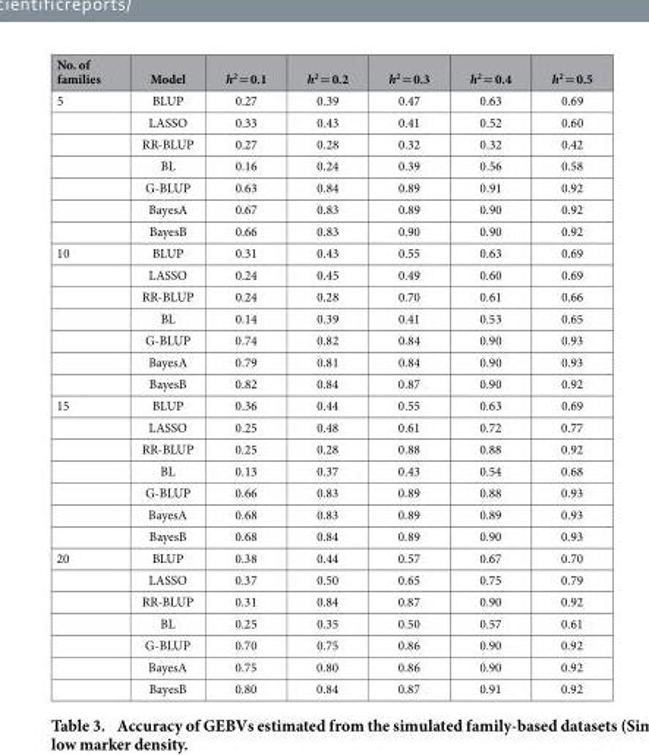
<table><thead><tr><td>No. of families</td><td>Model</td><td>h<sup>2</sup> = 0.1</td><td>h<sup>2</sup> = 0.2</td><td>h<sup>2</sup> = 0.3</td><td>h<sup>2</sup> = 0.4</td><td>h<sup>2</sup> = 0.5</td></tr></thead><tbody><tr><td rowspan="7">5</td><td>BLUP</td><td>0.27</td><td>0.39</td><td>0.47</td><td>0.63</td><td>0.69</td></tr><tr><td>LASSO</td><td>0.33</td><td>0.43</td><td>0.41</td><td>0.52</td><td>0.60</td></tr><tr><td>RR-BLUP</td><td>0.27</td><td>0.28</td><td>0.32</td><td>0.32</td><td>0.42</td></tr><tr><td>BL</td><td>0.16</td><td>0.24</td><td>0.39</td><td>0.56</td><td>0.58</td></tr><tr><td>G-BLUP</td><td>0.63</td><td>0.84</td><td>0.89</td><td>0.91</td><td>0.92</td></tr><tr><td>BayesA</td><td>0.67</td><td>0.83</td><td>0.89</td><td>0.90</td><td>0.92</td></tr><tr><td>BayesB</td><td>0.66</td><td>0.83</td><td>0.90</td><td>0.90</td><td>0.92</td></tr><tr><td rowspan="7">10</td><td>BLUP</td><td>0.31</td><td>0.43</td><td>0.55</td><td>0.63</td><td>0.69</td></tr><tr><td>LASSO</td><td>0.24</td><td>0.45</td><td>0.49</td><td>0.60</td><td>0.69</td></tr><tr><td>RR-BLUP</td><td>0.24</td><td>0.28</td><td>0.70</td><td>0.61</td><td>0.66</td></tr><tr><td>BL</td><td>0.14</td><td>0.39</td><td>0.41</td><td>0.53</td><td>0.65</td></tr><tr><td>G-BLUP</td><td>0.74</td><td>0.82</td><td>0.84</td><td>0.90</td><td>0.93</td></tr><tr><td>BayesA</td><td>0.79</td><td>0.81</td><td>0.84</td><td>0.90</td><td>0.93</td></tr><tr><td>BayesB</td><td>0.82</td><td>0.84</td><td>0.87</td><td>0.90</td><td>0.92</td></tr><tr><td rowspan="7">15</td><td>BLUP</td><td>0.36</td><td>0.44</td><td>0.55</td><td>0.63</td><td>0.69</td></tr><tr><td>LASSO</td><td>0.25</td><td>0.48</td><td>0.61</td><td>0.72</td><td>0.77</td></tr><tr><td>RR-BLUP</td><td>0.25</td><td>0.28</td><td>0.88</td><td>0.88</td><td>0.92</td></tr><tr><td>BL</td><td>0.13</td><td>0.37</td><td>0.43</td><td>0.54</td><td>0.68</td></tr><tr><td>G-BLUP</td><td>0.66</td><td>0.83</td><td>0.89</td><td>0.88</td><td>0.93</td></tr><tr><td>BayesA</td><td>0.68</td><td>0.83</td><td>0.89</td><td>0.89</td><td>0.93</td></tr><tr><td>BayesB</td><td>0.68</td><td>0.84</td><td>0.89</td><td>0.90</td><td>0.93</td></tr><tr><td rowspan="7">20</td><td>BLUP</td><td>0.38</td><td>0.44</td><td>0.57</td><td>0.67</td><td>0.70</td></tr><tr><td>LASSO</td><td>0.37</td><td>0.50</td><td>0.65</td><td>0.75</td><td>0.79</td></tr><tr><td>RR-BLUP</td><td>0.31</td><td>0.84</td><td>0.87</td><td>0.90</td><td>0.92</td></tr><tr><td>BL</td><td>0.25</td><td>0.35</td><td>0.50</td><td>0.57</td><td>0.61</td></tr><tr><td>G-BLUP</td><td>0.70</td><td>0.75</td><td>0.86</td><td>0.90</td><td>0.92</td></tr><tr><td>BayesA</td><td>0.75</td><td>0.80</td><td>0.86</td><td>0.90</td><td>0.92</td></tr><tr><td>BayesB</td><td>0.80</td><td>0.84</td><td>0.87</td><td>0.91</td><td>0.92</td></tr></tbody></table>